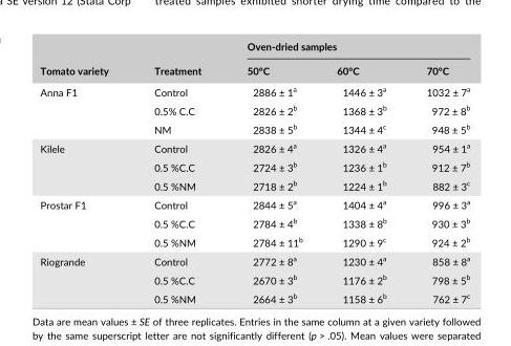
<table><thead><tr><td rowspan="2">Tomato variety</td><td rowspan="2">Treatment</td><td colspan="3">Oven- dried samples</td></tr><tr><td>50°C</td><td>60°C</td><td>70°C</td></tr></thead><tbody><tr><td rowspan="3">Anna F1</td><td>Control</td><td>2886 ± 1<sup>a</sup></td><td>1446 ± 3<sup>a</sup></td><td>1032 ± 7<sup>a</sup></td></tr><tr><td>0.5% C.C</td><td>2826 ± 2<sup>b</sup></td><td>1368 ± 3<sup>b</sup></td><td>972 ± 8<sup>b</sup></td></tr><tr><td>NM</td><td>2838 ± 5<sup>b</sup></td><td>1344 ± 4<sup>c</sup></td><td>948 ± 5<sup>b</sup></td></tr><tr><td rowspan="3">Kilele</td><td>Control</td><td>2826 ± 4<sup>a</sup></td><td>1326 ± 4<sup>a</sup></td><td>954 ± 1<sup>a</sup></td></tr><tr><td>0.5 %C.C</td><td>2724 ± 3<sup>b</sup></td><td>1236 ± 1<sup>b</sup></td><td>912 ± 7<sup>b</sup></td></tr><tr><td>0.5 %NM</td><td>2718 ± 2<sup>b</sup></td><td>1224 ± 1<sup>b</sup></td><td>882 ± 3<sup>c</sup></td></tr><tr><td rowspan="3">Prostar F1</td><td>Control</td><td>2844 ± 5<sup>a</sup></td><td>1404 ± 4<sup>a</sup></td><td>996 ± 3<sup>a</sup></td></tr><tr><td>0.5 %C.C</td><td>2784 ± 4<sup>b</sup></td><td>1338 ± 8<sup>b</sup></td><td>930 ± 3<sup>b</sup></td></tr><tr><td>0.5 %NM</td><td>2784 ± 11<sup>b</sup></td><td>1290 ± 9<sup>c</sup></td><td>924 ± 2<sup>b</sup></td></tr><tr><td rowspan="3">Riogrande</td><td>Control</td><td>2772 ± 8<sup>a</sup></td><td>1230 ± 4<sup>a</sup></td><td>858 ± 8<sup>a</sup></td></tr><tr><td>0.5 %C.C</td><td>2670 ± 3<sup>b</sup></td><td>1176 ± 2<sup>b</sup></td><td>798 ± 5<sup>b</sup></td></tr><tr><td>0.5 %NM</td><td>2664 ± 3<sup>b</sup></td><td>1158 ± 6<sup>b</sup></td><td>762 ± 7<sup>c</sup></td></tr></tbody></table>